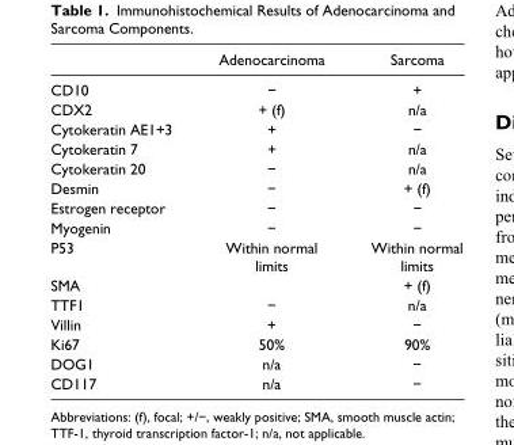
<table><thead><tr><td></td><td>Adenocarcinoma</td><td>Sarcoma</td></tr></thead><tbody><tr><td>CD10</td><td>−</td><td>+</td></tr><tr><td>CDX2</td><td>+ (f)</td><td>n/a</td></tr><tr><td>Cytokeratin AE1+3</td><td>+</td><td>−</td></tr><tr><td>Cytokeratin 7</td><td>+</td><td>n/a</td></tr><tr><td>Cytokeratin 20</td><td>−</td><td>n/a</td></tr><tr><td>Desmin</td><td>−</td><td>+ (f)</td></tr><tr><td>Estrogen receptor</td><td>−</td><td>−</td></tr><tr><td>Myogenin</td><td>−</td><td>−</td></tr><tr><td>P53</td><td>Within normal limits</td><td>Within normal limits</td></tr><tr><td>SMA</td><td></td><td>+ (f)</td></tr><tr><td>TTF1</td><td>−</td><td>n/a</td></tr><tr><td>Villin</td><td>+</td><td>−</td></tr><tr><td>Ki67</td><td>50%</td><td>90%</td></tr><tr><td>DOG1</td><td>n/a</td><td>−</td></tr><tr><td>CD117</td><td>n/a</td><td>−</td></tr></tbody></table>